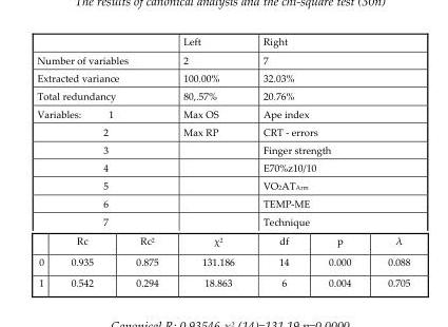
<table><thead><tr><td></td><td></td><td></td><td>Left</td><td colspan="3">Right</td></tr></thead><tbody><tr><td colspan="3">Number of variables</td><td>2</td><td colspan="3">7</td></tr><tr><td colspan="3">Extracted variance</td><td>100.00%</td><td colspan="3">32.03%</td></tr><tr><td colspan="3">Total redundancy</td><td>80,.57%</td><td colspan="3">20.76%</td></tr><tr><td colspan="3">Variables: 1</td><td>Max OS</td><td colspan="3">Ape index</td></tr><tr><td colspan="3">2</td><td>Max RP</td><td colspan="3">CRT - errors</td></tr><tr><td colspan="3">3</td><td></td><td colspan="3">Finger strength</td></tr><tr><td colspan="3">4</td><td></td><td colspan="3">E70%z10/10</td></tr><tr><td colspan="3">5</td><td></td><td colspan="3">VO<sub>2</sub>AT<sub>Arm</sub></td></tr><tr><td colspan="3">6</td><td></td><td colspan="3">TEMP-ME</td></tr><tr><td colspan="3">7</td><td></td><td colspan="3">Technique</td></tr><tr><td></td><td>Rc</td><td>Rc<sup>2</sup></td><td>χ<sup>2</sup></td><td>df</td><td>p</td><td>λ</td></tr><tr><td>0</td><td>0.935</td><td>0.875</td><td>131.186</td><td>14</td><td>0.000</td><td>0.088</td></tr><tr><td>1</td><td>0.542</td><td>0.294</td><td>18.863</td><td>6</td><td>0.004</td><td>0.705</td></tr></tbody></table>